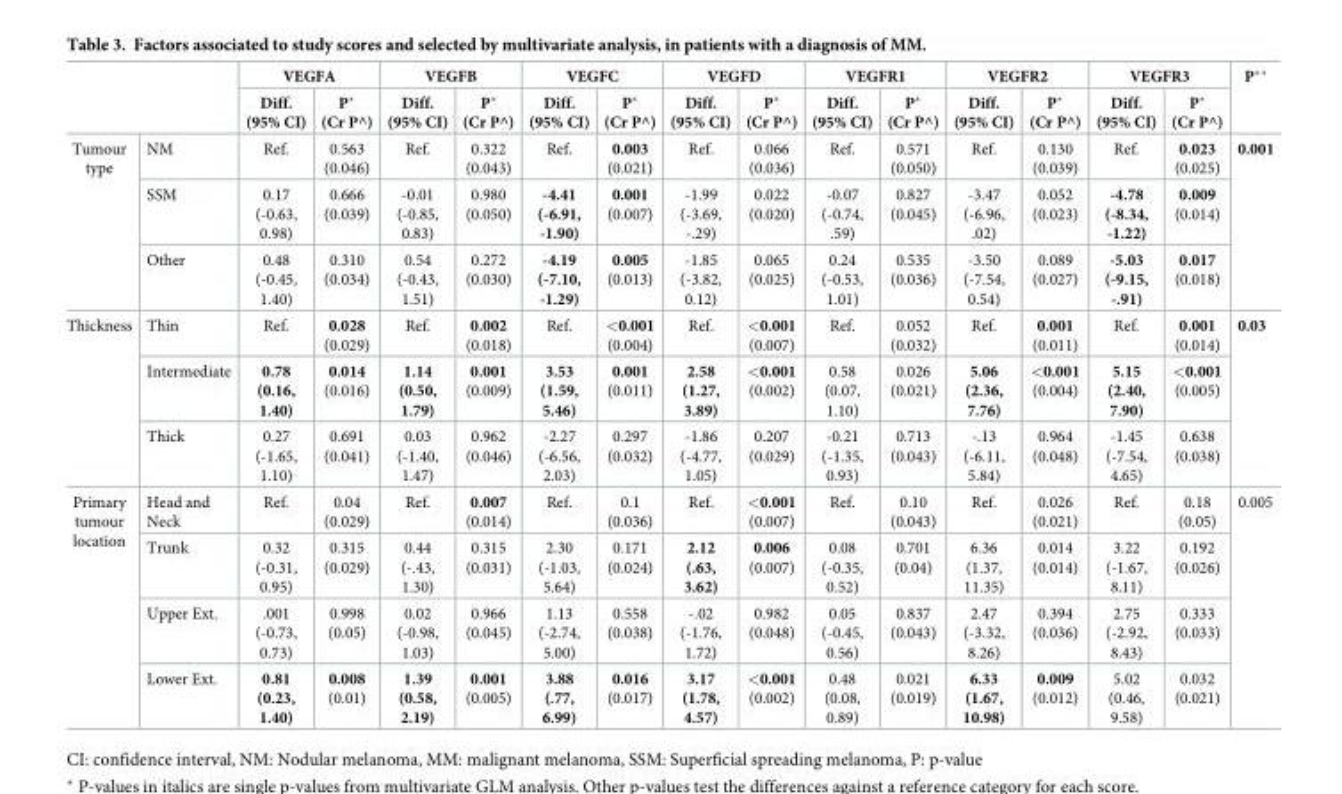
<table><thead><tr><td rowspan="2"></td><td rowspan="2"></td><td colspan="2">VEGFA</td><td colspan="2">VEGFB</td><td colspan="2">VEGFC</td><td colspan="2">VEGFD</td><td colspan="2">VEGFR1</td><td colspan="2">VEGFR2</td><td colspan="2">VEGFR3</td><td rowspan="2">P**</td></tr><tr><td>Diff. (95% CI)</td><td>P* (Cr P^)</td><td>Diff. (95% CI)</td><td>P* (Cr P^)</td><td>Diff. (95% CI)</td><td>P* (Cr P^)</td><td>Diff. (95% CI)</td><td>P* (Cr P^)</td><td>Diff. (95% CI)</td><td>P* (Cr P^)</td><td>Diff. (95% CI)</td><td>P* (Cr P^)</td><td>Diff. (95% CI)</td><td>P* (Cr P^)</td></tr></thead><tbody><tr><td rowspan="3">Tumour type</td><td>NM</td><td>Ref.</td><td>0.563 (0.046)</td><td>Ref.</td><td>0.322 (0.043)</td><td>Ref.</td><td>0.003 (0.021)</td><td>Ref.</td><td>0.066 (0.036)</td><td>Ref.</td><td>0.571 (0.050)</td><td>Ref.</td><td>0.130 (0.039)</td><td>Ref.</td><td>0.023 (0.025)</td><td rowspan="3">0.001</td></tr><tr><td>SSM</td><td>0.17 (-0.63, 0.98)</td><td>0.666 (0.039)</td><td>-0.01 (-0.85, 0.83)</td><td>0.980 (0.050)</td><td>-4.41 (-6.91, -1.90)</td><td>0.001 (0.007)</td><td>-1.99 (-3.69, -.29)</td><td>0.022 (0.020)</td><td>-0.07 (-0.74, .59)</td><td>0.827 (0.045)</td><td>-3.47 (-6.96, .02)</td><td>0.052 (0.023)</td><td>-4.78 (-8.34, -1.22)</td><td>0.009 (0.014)</td></tr><tr><td>Other</td><td>0.48 (-0.45, 1.40)</td><td>0.310 (0.034)</td><td>0.54 (-0.43, 1.51)</td><td>0.272 (0.030)</td><td>-4.19 (-7.10, -1.29)</td><td>0.005 (0.013)</td><td>-1.85 (-3.82, 0.12)</td><td>0.065 (0.025)</td><td>0.24 (-0.53, 1.01)</td><td>0.535 (0.036)</td><td>-3.50 (-7.54, 0.54)</td><td>0.089 (0.027)</td><td>-5.03 (-9.15, -.91)</td><td>0.017 (0.018)</td></tr><tr><td rowspan="3">Thickness</td><td>Thin</td><td>Ref.</td><td>0.028 (0.029)</td><td>Ref.</td><td>0.002 (0.018)</td><td>Ref.</td><td>&lt;0.001 (0.004)</td><td>Ref.</td><td>&lt;0.001 (0.007)</td><td>Ref.</td><td>0.052 (0.032)</td><td>Ref.</td><td>0.001 (0.011)</td><td>Ref.</td><td>0.001 (0.014)</td><td rowspan="3">0.03</td></tr><tr><td>Intermediate</td><td>0.78 (0.16, 1.40)</td><td>0.014 (0.016)</td><td>1.14 (0.50, 1.79)</td><td>0.001 (0.009)</td><td>3.53 (1.59, 5.46)</td><td>0.001 (0.011)</td><td>2.58 (1.27, 3.89)</td><td>&lt;0.001 (0.002)</td><td>0.58 (0.07, 1.10)</td><td>0.026 (0.021)</td><td>5.06 (2.36, 7.76)</td><td>&lt;0.001 (0.004)</td><td>5.15 (2.40, 7.90)</td><td>&lt;0.001 (0.005)</td></tr><tr><td>Thick</td><td>0.27 (-1.65, 1.10)</td><td>0.691 (0.041)</td><td>0.03 (-1.40, 1.47)</td><td>0.962 (0.046)</td><td>-2.27 (-6.56, 2.03)</td><td>0.297 (0.032)</td><td>-1.86 (-4.77, 1.05)</td><td>0.207 (0.029)</td><td>-0.21 (-1.35, 0.93)</td><td>0.713 (0.043)</td><td>-.13 (-6.11, 5.84)</td><td>0.964 (0.048)</td><td>-1.45 (-7.54, 4.65)</td><td>0.638 (0.038)</td></tr><tr><td rowspan="4">Primary tumour location</td><td>Head and Neck</td><td>Ref.</td><td>0.04 (0.029)</td><td>Ref.</td><td>0.007 (0.014)</td><td>Ref.</td><td>0.1 (0.036)</td><td>Ref.</td><td>&lt;0.001 (0.007)</td><td>Ref.</td><td>0.10 (0.043)</td><td>Ref.</td><td>0.026 (0.021)</td><td>Ref.</td><td>0.18 (0.05)</td><td rowspan="4">0.005</td></tr><tr><td>Trunk</td><td>0.32 (-0.31, 0.95)</td><td>0.315 (0.029)</td><td>0.44 (-.43, 1.30)</td><td>0.315 (0.031)</td><td>2.30 (-1.03, 5.64)</td><td>0.171 (0.024)</td><td>2.12 (.63, 3.62)</td><td>0.006 (0.007)</td><td>0.08 (-0.35, 0.52)</td><td>0.701 (0.04)</td><td>6.36 (1.37, 11.35)</td><td>0.014 (0.014)</td><td>3.22 (-1.67, 8.11)</td><td>0.192 (0.026)</td></tr><tr><td>Upper Ext.</td><td>.001 (-0.73, 0.73)</td><td>0.998 (0.05)</td><td>0.02 (-0.98, 1.03)</td><td>0.966 (0.045)</td><td>1.13 (-2.74, 5.00)</td><td>0.558 (0.038)</td><td>-.02 (-1.76, 1.72)</td><td>0.982 (0.048)</td><td>0.05 (-0.45, 0.56)</td><td>0.837 (0.043)</td><td>2.47 (-3.32, 8.26)</td><td>0.394 (0.036)</td><td>2.75 (-2.92, 8.43)</td><td>0.333 (0.033)</td></tr><tr><td>Lower Ext.</td><td>0.81 (0.23, 1.40)</td><td>0.008 (0.01)</td><td>1.39 (0.58, 2.19)</td><td>0.001 (0.005)</td><td>3.88 (.77, 6.99)</td><td>0.016 (0.017)</td><td>3.17 (1.78, 4.57)</td><td>&lt;0.001 (0.002)</td><td>0.48 (0.08, 0.89)</td><td>0.021 (0.019)</td><td>6.33 (1.67, 10.98)</td><td>0.009 (0.012)</td><td>5.02 (0.46, 9.58)</td><td>0.032 (0.021)</td></tr></tbody></table>